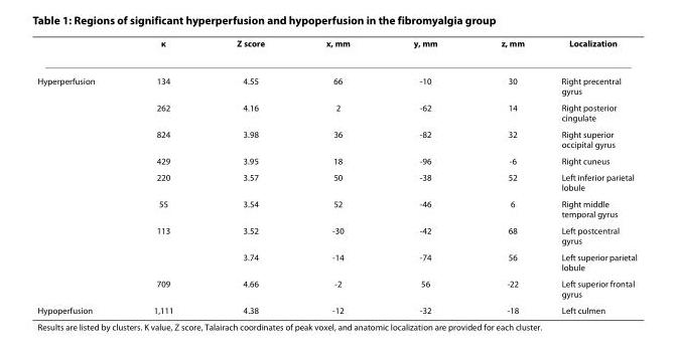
<table><thead><tr><td></td><td>κ</td><td>Z score</td><td>x, mm</td><td>y, mm</td><td>z, mm</td><td>Localization</td></tr></thead><tbody><tr><td rowspan="9">Hyperperfusion</td><td>134</td><td>4.55</td><td>66</td><td>-10</td><td>30</td><td>Right precentral gyrus</td></tr><tr><td>262</td><td>4.16</td><td>2</td><td>-62</td><td>14</td><td>Right posterior cingulate</td></tr><tr><td>824</td><td>3.98</td><td>36</td><td>-82</td><td>32</td><td>Right superior occipital gyrus</td></tr><tr><td>429</td><td>3.95</td><td>18</td><td>-96</td><td>-6</td><td>Right cuneus</td></tr><tr><td>220</td><td>3.57</td><td>50</td><td>-38</td><td>52</td><td>Left inferior parietal lobule</td></tr><tr><td>55</td><td>3.54</td><td>52</td><td>-46</td><td>6</td><td>Right middle temporal gyrus</td></tr><tr><td>113</td><td>3.52</td><td>-30</td><td>-42</td><td>68</td><td>Left postcentral gyrus</td></tr><tr><td></td><td>3.74</td><td>-14</td><td>-74</td><td>56</td><td>Left superior parietal lobule</td></tr><tr><td>709</td><td>4.66</td><td>-2</td><td>56</td><td>-22</td><td>Left superior frontal gyrus</td></tr><tr><td>Hypoperfusion</td><td>1,111</td><td>4.38</td><td>-12</td><td>-32</td><td>-18</td><td>Left culmen</td></tr></tbody></table>